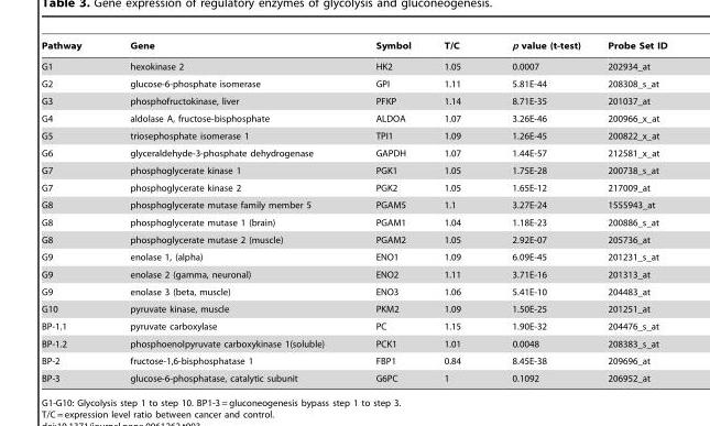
<table><thead><tr><td>Pathway</td><td>Gene</td><td>Symbol</td><td>T/C</td><td>p value (t-test)</td><td>Probe Set ID</td></tr></thead><tbody><tr><td>G1</td><td>hexokinase 2</td><td>HK2</td><td>1.05</td><td>0.0007</td><td>202934_at</td></tr><tr><td>G2</td><td>glucose-6-phosphate isomerase</td><td>GPI</td><td>1.11</td><td>5.81E-44</td><td>208308_s_at</td></tr><tr><td>G3</td><td>phosphofructokinase, liver</td><td>PFKP</td><td>1.14</td><td>8.71E-35</td><td>201037_at</td></tr><tr><td>G4</td><td>aldolase A, fructose-bisphosphate</td><td>ALDOA</td><td>1.07</td><td>3.26E-46</td><td>200966_x_at</td></tr><tr><td>G5</td><td>triosephosphate isomerase 1</td><td>TPI1</td><td>1.09</td><td>1.26E-45</td><td>200822_x_at</td></tr><tr><td>G6</td><td>glyceraldehyde-3-phosphate dehydrogenase</td><td>GAPDH</td><td>1.07</td><td>1.44E-57</td><td>212581_x_at</td></tr><tr><td>G7</td><td>phosphoglycerate kinase 1</td><td>PGK1</td><td>1.05</td><td>1.75E-28</td><td>200738_s_at</td></tr><tr><td>G7</td><td>phosphoglycerate kinase 2</td><td>PGK2</td><td>1.05</td><td>1.65E-12</td><td>217009_at</td></tr><tr><td>G8</td><td>phosphoglycerate mutase family member 5</td><td>PGAM5</td><td>1.1</td><td>3.27E-24</td><td>1555943_at</td></tr><tr><td>G8</td><td>phosphoglycerate mutase 1 (brain)</td><td>PGAM1</td><td>1.04</td><td>1.18E-23</td><td>200886_s_at</td></tr><tr><td>G8</td><td>phosphoglycerate mutase 2 (muscle)</td><td>PGAM2</td><td>1.05</td><td>2.92E-07</td><td>205736_at</td></tr><tr><td>G9</td><td>enolase 1, (alpha)</td><td>ENO1</td><td>1.09</td><td>6.09E-45</td><td>201231_s_at</td></tr><tr><td>G9</td><td>enolase 2 (gamma, neuronal)</td><td>ENO2</td><td>1.11</td><td>3.71E-16</td><td>201313_at</td></tr><tr><td>G9</td><td>enolase 3 (beta, muscle)</td><td>ENO3</td><td>1.06</td><td>5.41E-10</td><td>204483_at</td></tr><tr><td>G10</td><td>pyruvate kinase, muscle</td><td>PKM2</td><td>1.09</td><td>1.50E-25</td><td>201251_at</td></tr><tr><td>BP-1.1</td><td>pyruvate carboxylase</td><td>PC</td><td>1.15</td><td>1.90E-32</td><td>204476_s_at</td></tr><tr><td>BP-1.2</td><td>phosphoenolpyruvate carboxykinase 1(soluble)</td><td>PCK1</td><td>1.01</td><td>0.0048</td><td>208383_s_at</td></tr><tr><td>BP-2</td><td>fructose-1,6-bisphosphatase 1</td><td>FBP1</td><td>0.84</td><td>8.45E-38</td><td>209696_at</td></tr><tr><td>BP-3</td><td>glucose-6-phosphatase, catalytic subunit</td><td>G6PC</td><td>1</td><td>0.1092</td><td>206952_at</td></tr></tbody></table>